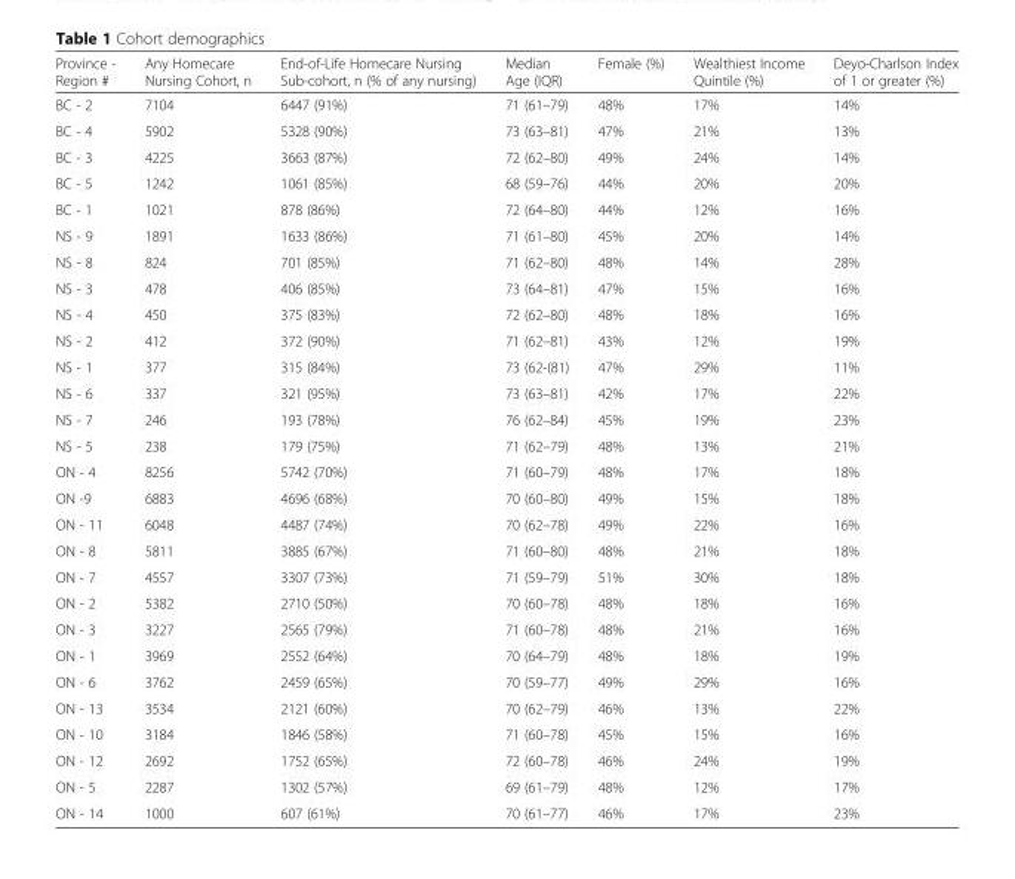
<table><thead><tr><td>Province - Region #</td><td>Any Homecare Nursing Cohort, n</td><td>End-of-Life Homecare Nursing Sub-cohort, n (% of any nursing)</td><td>Median Age (IQR)</td><td>Female (%)</td><td>Wealthiest Income Quintile (%)</td><td>Deyo-Charlson Index of 1 or greater (%)</td></tr></thead><tbody><tr><td>BC - 2</td><td>7104</td><td>6447 (91%)</td><td>71 (61–79)</td><td>48%</td><td>17%</td><td>14%</td></tr><tr><td>BC - 4</td><td>5902</td><td>5328 (90%)</td><td>73 (63–81)</td><td>47%</td><td>21%</td><td>13%</td></tr><tr><td>BC - 3</td><td>4225</td><td>3663 (87%)</td><td>72 (62–80)</td><td>49%</td><td>24%</td><td>14%</td></tr><tr><td>BC - 5</td><td>1242</td><td>1061 (85%)</td><td>68 (59–76)</td><td>44%</td><td>20%</td><td>20%</td></tr><tr><td>BC - 1</td><td>1021</td><td>878 (86%)</td><td>72 (64–80)</td><td>44%</td><td>12%</td><td>16%</td></tr><tr><td>NS - 9</td><td>1891</td><td>1633 (86%)</td><td>71 (61–80)</td><td>45%</td><td>20%</td><td>14%</td></tr><tr><td>NS - 8</td><td>824</td><td>701 (85%)</td><td>71 (62–80)</td><td>48%</td><td>14%</td><td>28%</td></tr><tr><td>NS - 3</td><td>478</td><td>406 (85%)</td><td>73 (64–81)</td><td>47%</td><td>15%</td><td>16%</td></tr><tr><td>NS - 4</td><td>450</td><td>375 (83%)</td><td>72 (62–80)</td><td>48%</td><td>18%</td><td>16%</td></tr><tr><td>NS - 2</td><td>412</td><td>372 (90%)</td><td>71 (62–81)</td><td>43%</td><td>12%</td><td>19%</td></tr><tr><td>NS - 1</td><td>377</td><td>315 (84%)</td><td>73 (62-(81)</td><td>47%</td><td>29%</td><td>11%</td></tr><tr><td>NS - 6</td><td>337</td><td>321 (95%)</td><td>73 (63–81)</td><td>42%</td><td>17%</td><td>22%</td></tr><tr><td>NS - 7</td><td>246</td><td>193 (78%)</td><td>76 (62–84)</td><td>45%</td><td>19%</td><td>23%</td></tr><tr><td>NS - 5</td><td>238</td><td>179 (75%)</td><td>71 (62–79)</td><td>48%</td><td>13%</td><td>21%</td></tr><tr><td>ON - 4</td><td>8256</td><td>5742 (70%)</td><td>71 (60–79)</td><td>48%</td><td>17%</td><td>18%</td></tr><tr><td>ON -9</td><td>6883</td><td>4696 (68%)</td><td>70 (60–80)</td><td>49%</td><td>15%</td><td>18%</td></tr><tr><td>ON - 11</td><td>6048</td><td>4487 (74%)</td><td>70 (62–78)</td><td>49%</td><td>22%</td><td>16%</td></tr><tr><td>ON - 8</td><td>5811</td><td>3885 (67%)</td><td>71 (60–80)</td><td>48%</td><td>21%</td><td>18%</td></tr><tr><td>ON - 7</td><td>4557</td><td>3307 (73%)</td><td>71 (59–79)</td><td>51%</td><td>30%</td><td>18%</td></tr><tr><td>ON - 2</td><td>5382</td><td>2710 (50%)</td><td>70 (60–78)</td><td>48%</td><td>18%</td><td>16%</td></tr><tr><td>ON - 3</td><td>3227</td><td>2565 (79%)</td><td>71 (60–78)</td><td>48%</td><td>21%</td><td>16%</td></tr><tr><td>ON - 1</td><td>3969</td><td>2552 (64%)</td><td>70 (64–79)</td><td>48%</td><td>18%</td><td>19%</td></tr><tr><td>ON - 6</td><td>3762</td><td>2459 (65%)</td><td>70 (59–77)</td><td>49%</td><td>29%</td><td>16%</td></tr><tr><td>ON - 13</td><td>3534</td><td>2121 (60%)</td><td>70 (62–79)</td><td>46%</td><td>13%</td><td>22%</td></tr><tr><td>ON - 10</td><td>3184</td><td>1846 (58%)</td><td>71 (60–78)</td><td>45%</td><td>15%</td><td>16%</td></tr><tr><td>ON - 12</td><td>2692</td><td>1752 (65%)</td><td>72 (60–78)</td><td>46%</td><td>24%</td><td>19%</td></tr><tr><td>ON - 5</td><td>2287</td><td>1302 (57%)</td><td>69 (61–79)</td><td>48%</td><td>12%</td><td>17%</td></tr><tr><td>ON - 14</td><td>1000</td><td>607 (61%)</td><td>70 (61–77)</td><td>46%</td><td>17%</td><td>23%</td></tr></tbody></table>